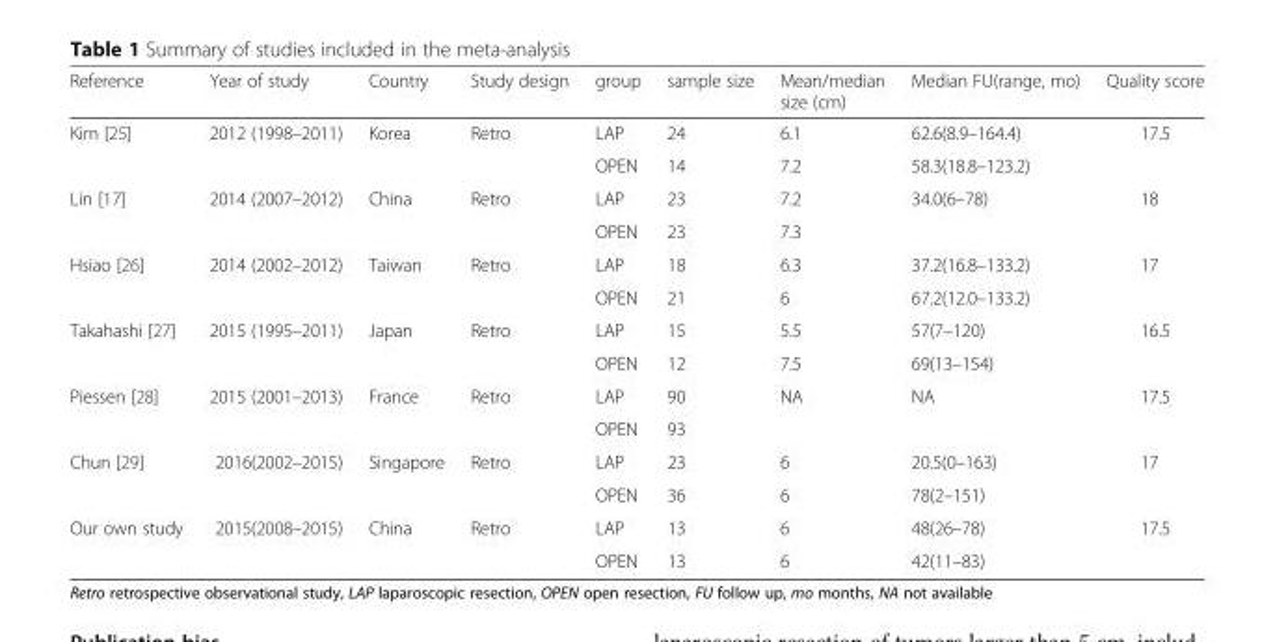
<table><thead><tr><td>Reference</td><td>Year of study</td><td>Country</td><td>Study design</td><td>group</td><td>sample size</td><td>Mean/median size (cm)</td><td>Median FU(range, mo)</td><td>Quality score</td></tr></thead><tbody><tr><td rowspan="2">Kim [25]</td><td>2012 (1998–2011)</td><td>Korea</td><td>Retro</td><td>LAP</td><td>24</td><td>6.1</td><td>62.6(8.9–164.4)</td><td>17.5</td></tr><tr><td></td><td></td><td></td><td>OPEN</td><td>14</td><td>7.2</td><td>58.3(18.8–123.2)</td><td></td></tr><tr><td rowspan="2">Lin [17]</td><td>2014 (2007–2012)</td><td>China</td><td>Retro</td><td>LAP</td><td>23</td><td>7.2</td><td rowspan="2">34.0(6–78)</td><td>18</td></tr><tr><td></td><td></td><td></td><td>OPEN</td><td>23</td><td>7.3</td><td></td></tr><tr><td rowspan="2">Hsiao [26]</td><td>2014 (2002–2012)</td><td>Taiwan</td><td>Retro</td><td>LAP</td><td>18</td><td>6.3</td><td>37.2(16.8–133.2)</td><td>17</td></tr><tr><td></td><td></td><td></td><td>OPEN</td><td>21</td><td>6</td><td>67.2(12.0–133.2)</td><td></td></tr><tr><td rowspan="2">Takahashi [27]</td><td>2015 (1995–2011)</td><td>Japan</td><td>Retro</td><td>LAP</td><td>15</td><td>5.5</td><td>57(7–120)</td><td>16.5</td></tr><tr><td></td><td></td><td></td><td>OPEN</td><td>12</td><td>7.5</td><td>69(13–154)</td><td></td></tr><tr><td rowspan="2">Piessen [28]</td><td>2015 (2001–2013)</td><td>France</td><td>Retro</td><td>LAP</td><td>90</td><td rowspan="2">NA</td><td rowspan="2">NA</td><td>17.5</td></tr><tr><td></td><td></td><td></td><td>OPEN</td><td>93</td><td></td></tr><tr><td rowspan="2">Chun [29]</td><td>2016(2002–2015)</td><td>Singapore</td><td>Retro</td><td>LAP</td><td>23</td><td>6</td><td>20.5(0–163)</td><td>17</td></tr><tr><td></td><td></td><td></td><td>OPEN</td><td>36</td><td>6</td><td>78(2–151)</td><td></td></tr><tr><td rowspan="2">Our own study</td><td>2015(2008–2015)</td><td>China</td><td>Retro</td><td>LAP</td><td>13</td><td>6</td><td>48(26–78)</td><td>17.5</td></tr><tr><td></td><td></td><td></td><td>OPEN</td><td>13</td><td>6</td><td>42(11–83)</td><td></td></tr></tbody></table>